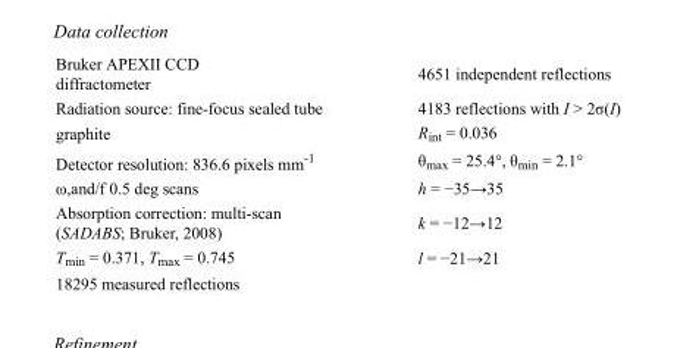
<table><tbody><tr><td>Bruker APEXII CCD diffractometer</td><td>4651 independent reflections</td></tr><tr><td>Radiation source: fine-focus sealed tube</td><td>4183 reflections with I &gt; 2σ(I)</td></tr><tr><td>graphite</td><td>R<sub>int</sub> = 0.036</td></tr><tr><td>Detector resolution: 836.6 pixels mm<sup>-1</sup></td><td>θ<sub>max</sub> = 25.4°, θ<sub>min</sub> = 2.1°</td></tr><tr><td>ω,and/f 0.5 deg scans</td><td>h = −35→35</td></tr><tr><td>Absorption correction: multi-scan (SADABS; Bruker, 2008)</td><td>k = −12→12</td></tr><tr><td>T<sub>min</sub> = 0.371, T<sub>max</sub> = 0.745</td><td>l = −21→21</td></tr><tr><td>18295 measured reflections</td><td></td></tr></tbody></table>